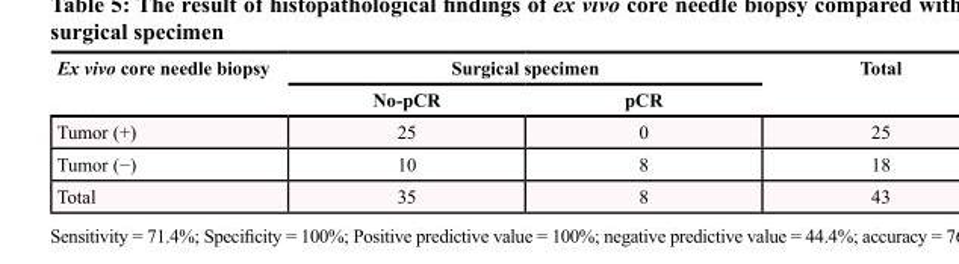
<table><thead><tr><td rowspan="2">Ex vivo core needle biopsy</td><td colspan="2">Surgical specimen</td><td rowspan="2">Total</td></tr><tr><td>No-pCR</td><td>pCR</td></tr></thead><tbody><tr><td>Tumor (+)</td><td>25</td><td>0</td><td>25</td></tr><tr><td>Tumor (−)</td><td>10</td><td>8</td><td>18</td></tr><tr><td>Total</td><td>35</td><td>8</td><td>43</td></tr></tbody></table>